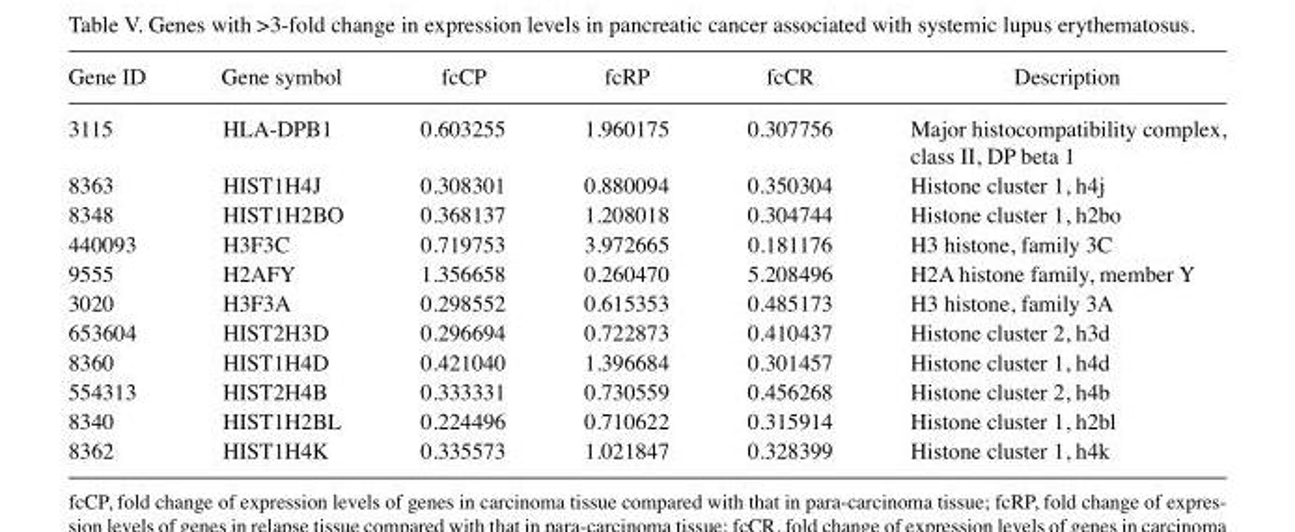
<table><thead><tr><td>Gene ID</td><td>Gene symbol</td><td>fcCP</td><td>fcRP</td><td>fcCR</td><td>Description</td></tr></thead><tbody><tr><td>3115</td><td>HLA-DPB1</td><td>0.603255</td><td>1.960175</td><td>0.307756</td><td>Major histocompatibility complex, class II, DP beta 1</td></tr><tr><td>8363</td><td>HIST1H4J</td><td>0.308301</td><td>0.880094</td><td>0.350304</td><td>Histone cluster 1, h4j</td></tr><tr><td>8348</td><td>HIST1H2BO</td><td>0.368137</td><td>1.208018</td><td>0.304744</td><td>Histone cluster 1, h2bo</td></tr><tr><td>440093</td><td>H3F3C</td><td>0.719753</td><td>3.972665</td><td>0.181176</td><td>H3 histone, family 3C</td></tr><tr><td>9555</td><td>H2AFY</td><td>1.356658</td><td>0.260470</td><td>5.208496</td><td>H2A histone family, member Y</td></tr><tr><td>3020</td><td>H3F3A</td><td>0.298552</td><td>0.615353</td><td>0.485173</td><td>H3 histone, family 3A</td></tr><tr><td>653604</td><td>HIST2H3D</td><td>0.296694</td><td>0.722873</td><td>0.410437</td><td>Histone cluster 2, h3d</td></tr><tr><td>8360</td><td>HIST1H4D</td><td>0.421040</td><td>1.396684</td><td>0.301457</td><td>Histone cluster 1, h4d</td></tr><tr><td>554313</td><td>HIST2H4B</td><td>0.333331</td><td>0.730559</td><td>0.456268</td><td>Histone cluster 2, h4b</td></tr><tr><td>8340</td><td>HIST1H2BL</td><td>0.224496</td><td>0.710622</td><td>0.315914</td><td>Histone cluster 1, h2bl</td></tr><tr><td>8362</td><td>HIST1H4K</td><td>0.335573</td><td>1.021847</td><td>0.328399</td><td>Histone cluster 1, h4k</td></tr></tbody></table>